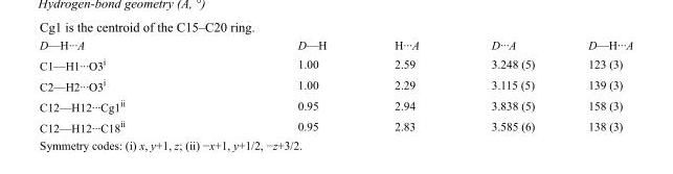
<table><tbody><tr><td>D—H···A</td><td>D—H</td><td>H···A</td><td>D···A</td><td>D—H···A</td></tr><tr><td>C1—H1···O3<sup>i</sup></td><td>1.00</td><td>2.59</td><td>3.248 (5)</td><td>123 (3)</td></tr><tr><td>C2—H2···O3<sup>i</sup></td><td>1.00</td><td>2.29</td><td>3.115 (5)</td><td>139 (3)</td></tr><tr><td>C12—H12···Cg1<sup>ii</sup></td><td>0.95</td><td>2.94</td><td>3.838 (5)</td><td>158 (3)</td></tr><tr><td>C12—H12···C18<sup>ii</sup></td><td>0.95</td><td>2.83</td><td>3.585 (6)</td><td>138 (3)</td></tr></tbody></table>